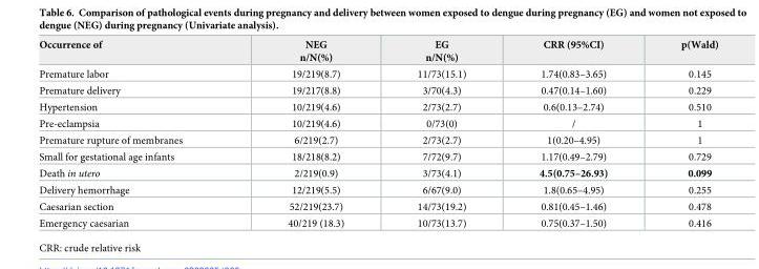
<table><thead><tr><td>Occurrence of</td><td>NEG n/N(%)</td><td>EG n/N(%)</td><td>CRR (95%CI)</td><td>p(Wald)</td></tr></thead><tbody><tr><td>Premature labor</td><td>19/219(8.7)</td><td>11/73(15.1)</td><td>1.74(0.83–3.65)</td><td>0.145</td></tr><tr><td>Premature delivery</td><td>19/217(8.8)</td><td>3/70(4.3)</td><td>0.47(0.14–1.60)</td><td>0.229</td></tr><tr><td>Hypertension</td><td>10/219(4.6)</td><td>2/73(2.7)</td><td>0.6(0.13–2.74)</td><td>0.510</td></tr><tr><td>Pre-eclampsia</td><td>10/219(4.6)</td><td>0/73(0)</td><td>/</td><td>1</td></tr><tr><td>Premature rupture of membranes</td><td>6/219(2.7)</td><td>2/73(2.7)</td><td>1(0.20–4.95)</td><td>1</td></tr><tr><td>Small for gestational age infants</td><td>18/218(8.2)</td><td>7/72(9.7)</td><td>1.17(0.49–2.79)</td><td>0.729</td></tr><tr><td>Death in utero</td><td>2/219(0.9)</td><td>3/73(4.1)</td><td>4.5(0.75–26.93)</td><td>0.099</td></tr><tr><td>Delivery hemorrhage</td><td>12/219(5.5)</td><td>6/67(9.0)</td><td>1.8(0.65–4.95)</td><td>0.255</td></tr><tr><td>Caesarian section</td><td>52/219(23.7)</td><td>14/73(19.2)</td><td>0.81(0.45–1.46)</td><td>0.478</td></tr><tr><td>Emergency caesarian</td><td>40/219 (18.3)</td><td>10/73(13.7)</td><td>0.75(0.37–1.50)</td><td>0.416</td></tr></tbody></table>